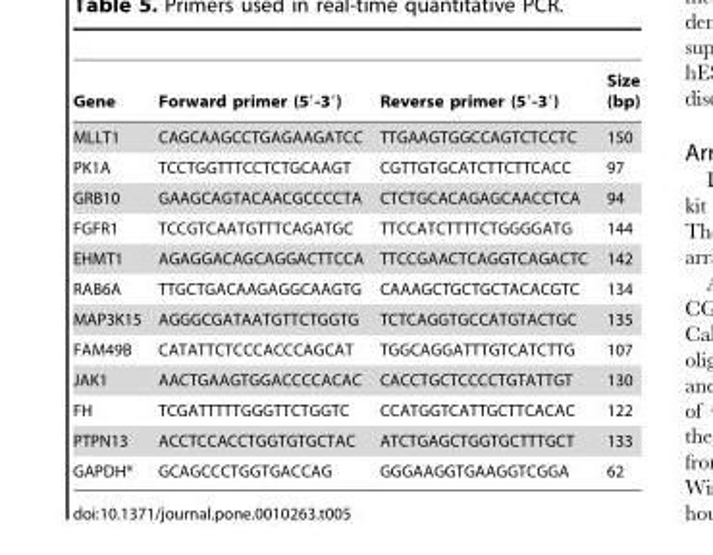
<table><thead><tr><td>Gene</td><td>Forward primer (5′-3′)</td><td>Reverse primer (5′-3′)</td><td>Size (bp)</td></tr></thead><tbody><tr><td>MLLT1</td><td>CAGCAAGCCTGAGAAGATCC</td><td>TTGAAGTGGCCAGTCTCCTC</td><td>150</td></tr><tr><td>PK1A</td><td>TCCTGGTTTCCTCTGCAAGT</td><td>CGTTGTGCATCTTCTTCACC</td><td>97</td></tr><tr><td>GRB10</td><td>GAAGCAGTACAACGCCCCTA</td><td>CTCTGCACAGAGCAACCTCA</td><td>94</td></tr><tr><td>FGFR1</td><td>TCCGTCAATGTTTCAGATGC</td><td>TTCCATCTTTTCTGGGGATG</td><td>144</td></tr><tr><td>EHMT1</td><td>AGAGGACAGCAGGACTTCCA</td><td>TTCCGAACTCAGGTCAGACTC</td><td>142</td></tr><tr><td>RAB6A</td><td>TTGCTGACAAGAGGCAAGTG</td><td>CAAAGCTGCTGCTACACGTC</td><td>134</td></tr><tr><td>MAP3K15</td><td>AGGGCGATAATGTTCTGGTG</td><td>TCTCAGGTGCCATGTACTGC</td><td>135</td></tr><tr><td>FAM49B</td><td>CATATTCTCCCACCCAGCAT</td><td>TGGCAGGATTTGTCATCTTG</td><td>107</td></tr><tr><td>JAK1</td><td>AACTGAAGTGGACCCCACAC</td><td>CACCTGCTCCCCTGTATTGT</td><td>130</td></tr><tr><td>FH</td><td>TCGATTTTTGGGTTCTGGTC</td><td>CCATGGTCATTGCTTCACAC</td><td>122</td></tr><tr><td>PTPN13</td><td>ACCTCCACCTGGTGTGCTAC</td><td>ATCTGAGCTGGTGCTTTGCT</td><td>133</td></tr><tr><td>GAPDH*</td><td>GCAGCCCTGGTGACCAG</td><td>GGGAAGGTGAAGGTCGGA</td><td>62</td></tr></tbody></table>